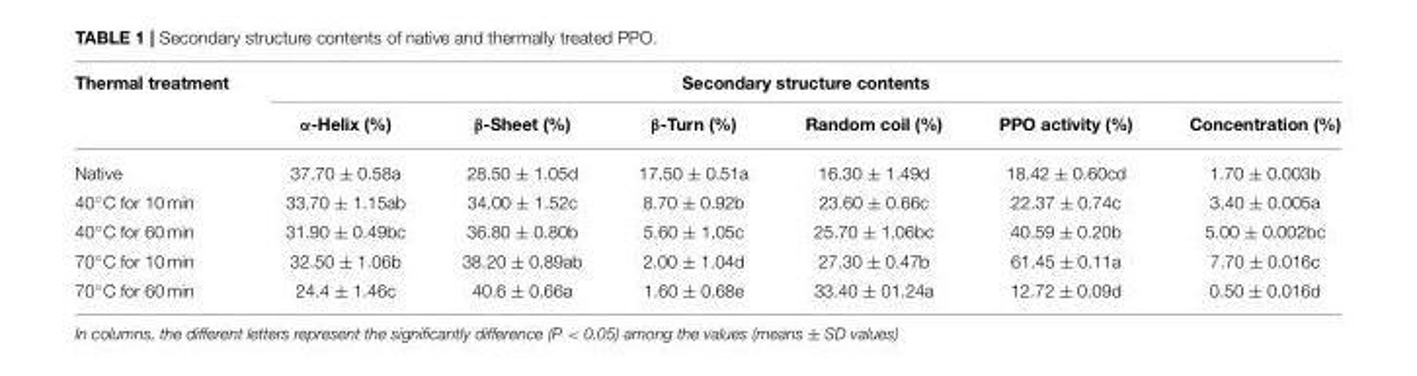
<table><thead><tr><td rowspan="2">Thermal treatment</td><td colspan="6">Secondary structure contents</td></tr><tr><td>α-Helix (%)</td><td>β-Sheet (%)</td><td>β-Turn (%)</td><td>Random coil (%)</td><td>PPO activity (%)</td><td>Concentration (%)</td></tr></thead><tbody><tr><td>Native</td><td>37.70 ± 0.58a</td><td>28.50 ± 1.05d</td><td>17.50 ± 0.51a</td><td>16.30 ± 1.49d</td><td>18.42 ± 0.60cd</td><td>1.70 ± 0.003b</td></tr><tr><td>40◦C for 10 min</td><td>33.70 ± 1.15ab</td><td>34.00 ± 1.52c</td><td>8.70 ± 0.92b</td><td>23.60 ± 0.66c</td><td>22.37 ± 0.74c</td><td>3.40 ± 0.005a</td></tr><tr><td>40◦C for 60 min</td><td>31.90 ± 0.49bc</td><td>36.80 ± 0.80b</td><td>5.60 ± 1.05c</td><td>25.70 ± 1.06bc</td><td>40.59 ± 0.20b</td><td>5.00 ± 0.002bc</td></tr><tr><td>70◦C for 10 min</td><td>32.50 ± 1.06b</td><td>38.20 ± 0.89ab</td><td>2.00 ± 1.04d</td><td>27.30 ± 0.47b</td><td>61.45 ± 0.11a</td><td>7.70 ± 0.016c</td></tr><tr><td>70◦C for 60 min</td><td>24.4 ± 1.46c</td><td>40.6 ± 0.66a</td><td>1.60 ± 0.68e</td><td>33.40 ± 01.24a</td><td>12.72 ± 0.09d</td><td>0.50 ± 0.016d</td></tr></tbody></table>